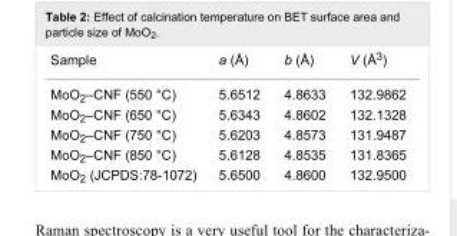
<table><tbody><tr><td>Sample</td><td>a (Å)</td><td>b (Å)</td><td>V (Å<sup>3</sup>)</td></tr><tr><td>MoO<sub>2</sub>–CNF (550 °C)</td><td>5.6512</td><td>4.8633</td><td>132.9862</td></tr><tr><td>MoO<sub>2</sub>–CNF (650 °C)</td><td>5.6343</td><td>4.8602</td><td>132.1328</td></tr><tr><td>MoO<sub>2</sub>–CNF (750 °C)</td><td>5.6203</td><td>4.8573</td><td>131.9487</td></tr><tr><td>MoO<sub>2</sub>–CNF (850 °C)</td><td>5.6128</td><td>4.8535</td><td>131.8365</td></tr><tr><td>MoO<sub>2</sub> (JCPDS:78-1072)</td><td>5.6500</td><td>4.8600</td><td>132.9500</td></tr></tbody></table>